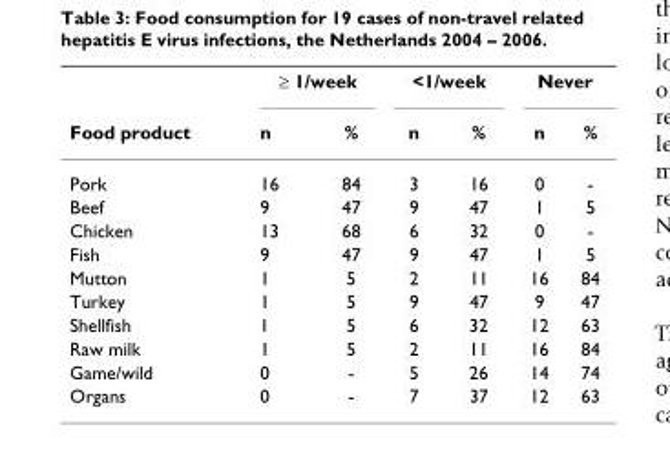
<table><thead><tr><td rowspan="2">Food product</td><td colspan="2">≥ 1/week</td><td colspan="2">&lt;1/week</td><td colspan="2">Never</td></tr><tr><td>n</td><td>%</td><td>n</td><td>%</td><td>n</td><td>%</td></tr></thead><tbody><tr><td>Pork</td><td>16</td><td>84</td><td>3</td><td>16</td><td>0</td><td>-</td></tr><tr><td>Beef</td><td>9</td><td>47</td><td>9</td><td>47</td><td>1</td><td>5</td></tr><tr><td>Chicken</td><td>13</td><td>68</td><td>6</td><td>32</td><td>0</td><td>-</td></tr><tr><td>Fish</td><td>9</td><td>47</td><td>9</td><td>47</td><td>1</td><td>5</td></tr><tr><td>Mutton</td><td>1</td><td>5</td><td>2</td><td>11</td><td>16</td><td>84</td></tr><tr><td>Turkey</td><td>1</td><td>5</td><td>9</td><td>47</td><td>9</td><td>47</td></tr><tr><td>Shellfish</td><td>1</td><td>5</td><td>6</td><td>32</td><td>12</td><td>63</td></tr><tr><td>Raw milk</td><td>1</td><td>5</td><td>2</td><td>11</td><td>16</td><td>84</td></tr><tr><td>Game/wild</td><td>0</td><td>-</td><td>5</td><td>26</td><td>14</td><td>74</td></tr><tr><td>Organs</td><td>0</td><td>-</td><td>7</td><td>37</td><td>12</td><td>63</td></tr></tbody></table>